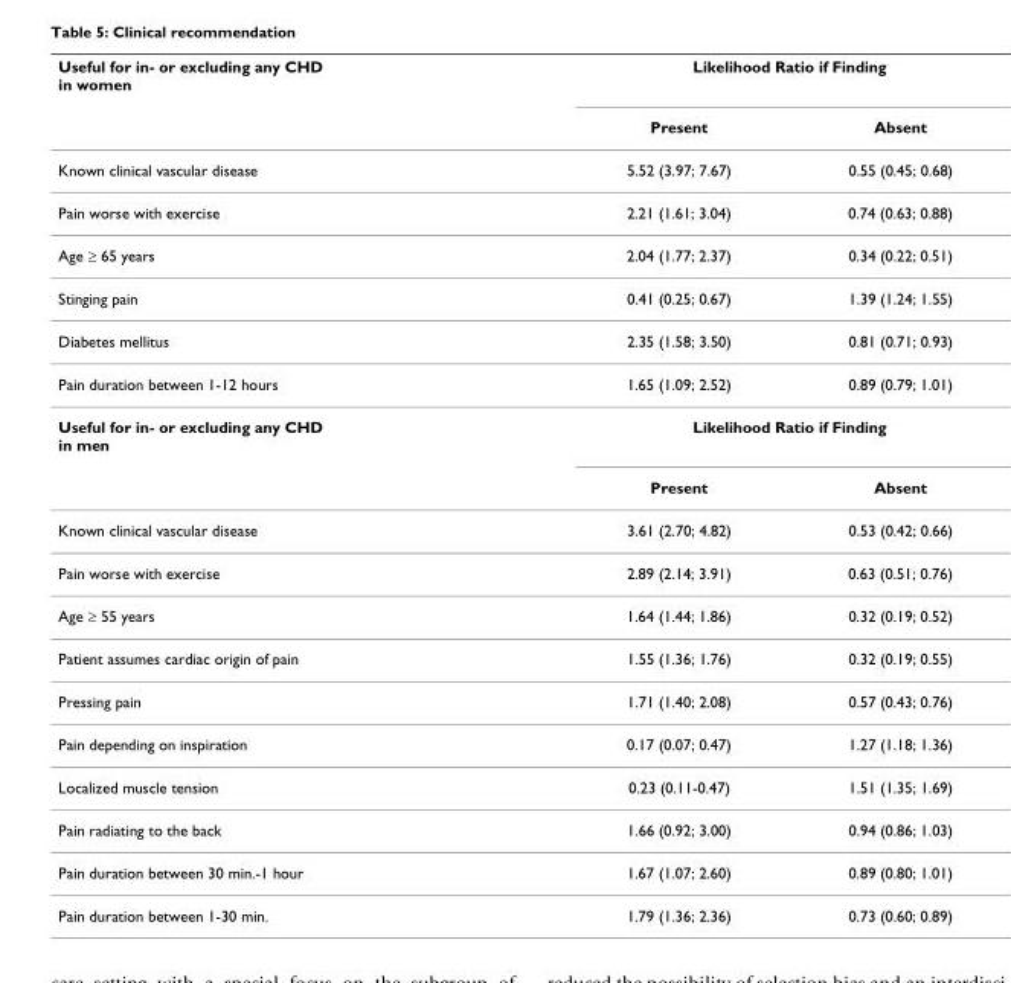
<table><thead><tr><td rowspan="2">Useful for in- or excluding any CHD in women</td><td colspan="2">Likelihood Ratio if Finding</td></tr><tr><td>Present</td><td>Absent</td></tr></thead><tbody><tr><td>Known clinical vascular disease</td><td>5.52 (3.97; 7.67)</td><td>0.55 (0.45; 0.68)</td></tr><tr><td>Pain worse with exercise</td><td>2.21 (1.61; 3.04)</td><td>0.74 (0.63; 0.88)</td></tr><tr><td>Age ≥ 65 years</td><td>2.04 (1.77; 2.37)</td><td>0.34 (0.22; 0.51)</td></tr><tr><td>Stinging pain</td><td>0.41 (0.25; 0.67)</td><td>1.39 (1.24; 1.55)</td></tr><tr><td>Diabetes mellitus</td><td>2.35 (1.58; 3.50)</td><td>0.81 (0.71; 0.93)</td></tr><tr><td>Pain duration between 1-12 hours</td><td>1.65 (1.09; 2.52)</td><td>0.89 (0.79; 1.01)</td></tr><tr><td rowspan="2">Useful for in- or excluding any CHD in men</td><td colspan="2">Likelihood Ratio if Finding</td></tr><tr><td>Present</td><td>Absent</td></tr><tr><td>Known clinical vascular disease</td><td>3.61 (2.70; 4.82)</td><td>0.53 (0.42; 0.66)</td></tr><tr><td>Pain worse with exercise</td><td>2.89 (2.14; 3.91)</td><td>0.63 (0.51; 0.76)</td></tr><tr><td>Age ≥ 55 years</td><td>1.64 (1.44; 1.86)</td><td>0.32 (0.19; 0.52)</td></tr><tr><td>Patient assumes cardiac origin of pain</td><td>1.55 (1.36; 1.76)</td><td>0.32 (0.19; 0.55)</td></tr><tr><td>Pressing pain</td><td>1.71 (1.40; 2.08)</td><td>0.57 (0.43; 0.76)</td></tr><tr><td>Pain depending on inspiration</td><td>0.17 (0.07; 0.47)</td><td>1.27 (1.18; 1.36)</td></tr><tr><td>Localized muscle tension</td><td>0.23 (0.11-0.47)</td><td>1.51 (1.35; 1.69)</td></tr><tr><td>Pain radiating to the back</td><td>1.66 (0.92; 3.00)</td><td>0.94 (0.86; 1.03)</td></tr><tr><td>Pain duration between 30 min.-1 hour</td><td>1.67 (1.07; 2.60)</td><td>0.89 (0.80; 1.01)</td></tr><tr><td>Pain duration between 1-30 min.</td><td>1.79 (1.36; 2.36)</td><td>0.73 (0.60; 0.89)</td></tr></tbody></table>